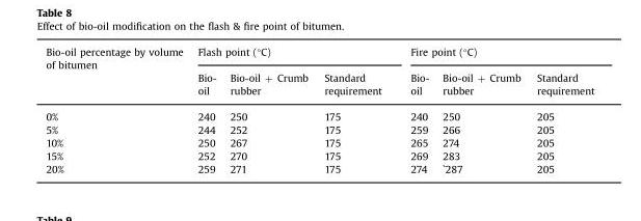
<table><thead><tr><td rowspan="2">Bio-oil percentage by volume of bitumen</td><td colspan="3">Flash point (°C)</td><td colspan="3">Fire point (°C)</td></tr><tr><td>Bio- oil</td><td>Bio-oil + Crumb rubber</td><td>Standard requirement</td><td>Bio- oil</td><td>Bio-oil + Crumb rubber</td><td>Standard requirement</td></tr></thead><tbody><tr><td>0%</td><td>240</td><td>250</td><td>175</td><td>240</td><td>250</td><td>205</td></tr><tr><td>5%</td><td>244</td><td>252</td><td>175</td><td>259</td><td>266</td><td>205</td></tr><tr><td>10%</td><td>250</td><td>267</td><td>175</td><td>265</td><td>274</td><td>205</td></tr><tr><td>15%</td><td>252</td><td>270</td><td>175</td><td>269</td><td>283</td><td>205</td></tr><tr><td>20%</td><td>259</td><td>271</td><td>175</td><td>274</td><td>`287</td><td>205</td></tr></tbody></table>